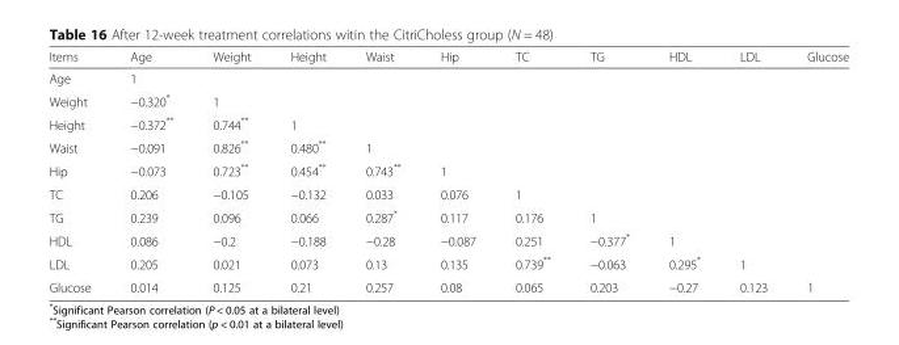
<table><thead><tr><td>Items</td><td>Age</td><td>Weight</td><td>Height</td><td>Waist</td><td>Hip</td><td>TC</td><td>TG</td><td>HDL</td><td>LDL</td><td>Glucose</td></tr></thead><tbody><tr><td>Age</td><td>1</td><td></td><td></td><td></td><td></td><td></td><td></td><td></td><td></td><td></td></tr><tr><td>Weight</td><td>−0.320*</td><td>1</td><td></td><td></td><td></td><td></td><td></td><td></td><td></td><td></td></tr><tr><td>Height</td><td>−0.372**</td><td>0.744**</td><td>1</td><td></td><td></td><td></td><td></td><td></td><td></td><td></td></tr><tr><td>Waist</td><td>−0.091</td><td>0.826**</td><td>0.480**</td><td>1</td><td></td><td></td><td></td><td></td><td></td><td></td></tr><tr><td>Hip</td><td>−0.073</td><td>0.723**</td><td>0.454**</td><td>0.743**</td><td>1</td><td></td><td></td><td></td><td></td><td></td></tr><tr><td>TC</td><td>0.206</td><td>−0.105</td><td>−0.132</td><td>0.033</td><td>0.076</td><td>1</td><td></td><td></td><td></td><td></td></tr><tr><td>TG</td><td>0.239</td><td>0.096</td><td>0.066</td><td>0.287*</td><td>0.117</td><td>0.176</td><td>1</td><td></td><td></td><td></td></tr><tr><td>HDL</td><td>0.086</td><td>−0.2</td><td>−0.188</td><td>−0.28</td><td>−0.087</td><td>0.251</td><td>−0.377*</td><td>1</td><td></td><td></td></tr><tr><td>LDL</td><td>0.205</td><td>0.021</td><td>0.073</td><td>0.13</td><td>0.135</td><td>0.739**</td><td>−0.063</td><td>0.295*</td><td>1</td><td></td></tr><tr><td>Glucose</td><td>0.014</td><td>0.125</td><td>0.21</td><td>0.257</td><td>0.08</td><td>0.065</td><td>0.203</td><td>−0.27</td><td>0.123</td><td>1</td></tr></tbody></table>